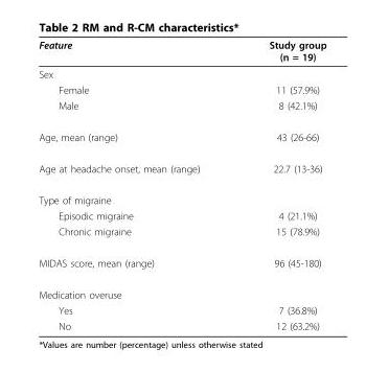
<table><thead><tr><td>Feature</td><td>Study group (n = 19)</td></tr></thead><tbody><tr><td colspan="2">Sex</td></tr><tr><td>Female</td><td>11 (57.9%)</td></tr><tr><td>Male</td><td>8 (42.1%)</td></tr><tr><td>Age, mean (range)</td><td>43 (26-66)</td></tr><tr><td>Age at headache onset, mean (range)</td><td>22.7 (13-36)</td></tr><tr><td colspan="2">Type of migraine</td></tr><tr><td>Episodic migraine</td><td>4 (21.1%)</td></tr><tr><td>Chronic migraine</td><td>15 (78.9%)</td></tr><tr><td>MIDAS score, mean (range)</td><td>96 (45-180)</td></tr><tr><td colspan="2">Medication overuse</td></tr><tr><td>Yes</td><td>7 (36.8%)</td></tr><tr><td>No</td><td>12 (63.2%)</td></tr></tbody></table>